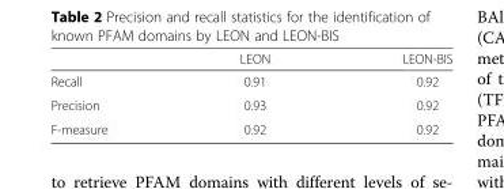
<table><thead><tr><td></td><td>LEON</td><td>LEON-BIS</td></tr></thead><tbody><tr><td>Recall</td><td>0.91</td><td>0.92</td></tr><tr><td>Precision</td><td>0.93</td><td>0.92</td></tr><tr><td>F-measure</td><td>0.92</td><td>0.92</td></tr></tbody></table>